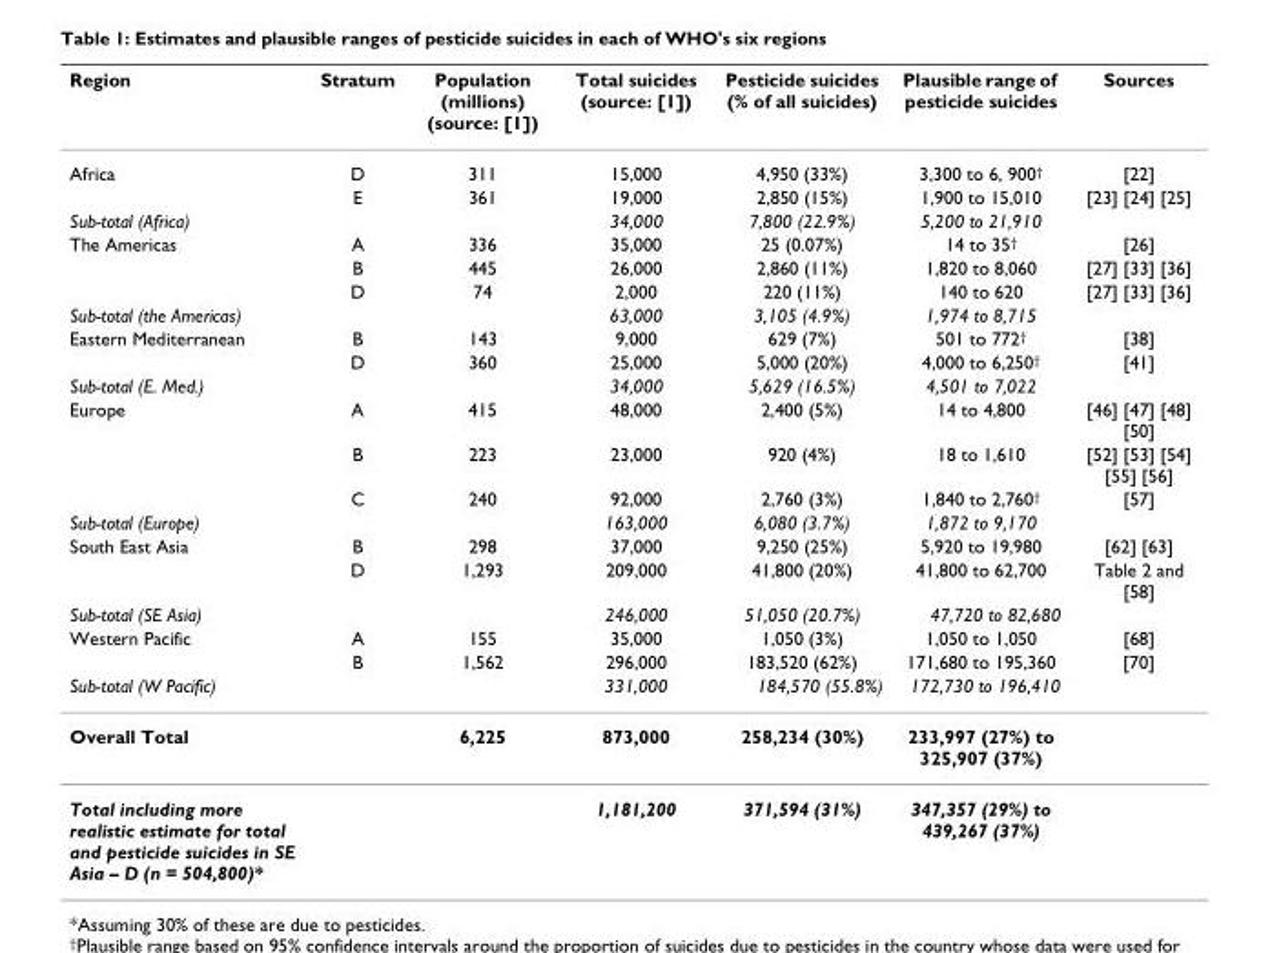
<table><thead><tr><td>Region</td><td>Stratum</td><td>Population (millions) (source: [1])</td><td>Total suicides (source: [1])</td><td>Pesticide suicides (% of all suicides)</td><td>Plausible range of pesticide suicides</td><td>Sources</td></tr></thead><tbody><tr><td rowspan="2">Africa</td><td>D</td><td>311</td><td>15,000</td><td>4,950 (33%)</td><td>3,300 to 6, 900<sup>†</sup></td><td>[22]</td></tr><tr><td>E</td><td>361</td><td>19,000</td><td>2,850 (15%)</td><td>1,900 to 15,010</td><td>[23] [24] [25]</td></tr><tr><td>Sub-total (Africa)</td><td></td><td></td><td>34,000</td><td>7,800 (22.9%)</td><td>5,200 to 21,910</td><td></td></tr><tr><td rowspan="3">The Americas</td><td>A</td><td>336</td><td>35,000</td><td>25 (0.07%)</td><td>14 to 35<sup>†</sup></td><td>[26]</td></tr><tr><td>B</td><td>445</td><td>26,000</td><td>2,860 (11%)</td><td>1,820 to 8,060</td><td>[27] [33] [36]</td></tr><tr><td>D</td><td>74</td><td>2,000</td><td>220 (11%)</td><td>140 to 620</td><td>[27] [33] [36]</td></tr><tr><td>Sub-total (the Americas)</td><td></td><td></td><td>63,000</td><td>3,105 (4.9%)</td><td>1,974 to 8,715</td><td></td></tr><tr><td rowspan="2">Eastern Mediterranean</td><td>B</td><td>143</td><td>9,000</td><td>629 (7%)</td><td>501 to 772<sup>†</sup></td><td>[38]</td></tr><tr><td>D</td><td>360</td><td>25,000</td><td>5,000 (20%)</td><td>4,000 to 6,250<sup>†</sup></td><td>[41]</td></tr><tr><td>Sub-total (E. Med.)</td><td></td><td></td><td>34,000</td><td>5,629 (16.5%)</td><td>4,501 to 7,022</td><td></td></tr><tr><td rowspan="3">Europe</td><td>A</td><td>415</td><td>48,000</td><td>2,400 (5%)</td><td>14 to 4,800</td><td>[46] [47] [48] [50]</td></tr><tr><td>B</td><td>223</td><td>23,000</td><td>920 (4%)</td><td>18 to 1,610</td><td>[52] [53] [54] [55] [56]</td></tr><tr><td>C</td><td>240</td><td>92,000</td><td>2,760 (3%)</td><td>1,840 to 2,760<sup>†</sup></td><td>[57]</td></tr><tr><td>Sub-total (Europe)</td><td></td><td></td><td>163,000</td><td>6,080 (3.7%)</td><td>1,872 to 9,170</td><td></td></tr><tr><td rowspan="2">South East Asia</td><td>B</td><td>298</td><td>37,000</td><td>9,250 (25%)</td><td>5,920 to 19,980</td><td>[62] [63]</td></tr><tr><td>D</td><td>1,293</td><td>209,000</td><td>41,800 (20%)</td><td>41,800 to 62,700</td><td>Table 2 and [58]</td></tr><tr><td>Sub-total (SE Asia)</td><td></td><td></td><td>246,000</td><td>51,050 (20.7%)</td><td>47,720 to 82,680</td><td></td></tr><tr><td rowspan="2">Western Pacific</td><td>A</td><td>155</td><td>35,000</td><td>1,050 (3%)</td><td>1,050 to 1,050</td><td>[68]</td></tr><tr><td>B</td><td>1,562</td><td>296,000</td><td>183,520 (62%)</td><td>171,680 to 195,360</td><td>[70]</td></tr><tr><td>Sub-total (W Pacific)</td><td></td><td></td><td>331,000</td><td>184,570 (55.8%)</td><td>172,730 to 196,410</td><td></td></tr><tr><td>Overall Total</td><td></td><td>6,225</td><td>873,000</td><td>258,234 (30%)</td><td>233,997 (27%) to 325,907 (37%)</td><td></td></tr><tr><td>Total including more realistic estimate for total and pesticide suicides in SE Asia – D (n = 504,800)*</td><td></td><td></td><td>1,181,200</td><td>371,594 (31%)</td><td>347,357 (29%) to 439,267 (37%)</td><td></td></tr></tbody></table>